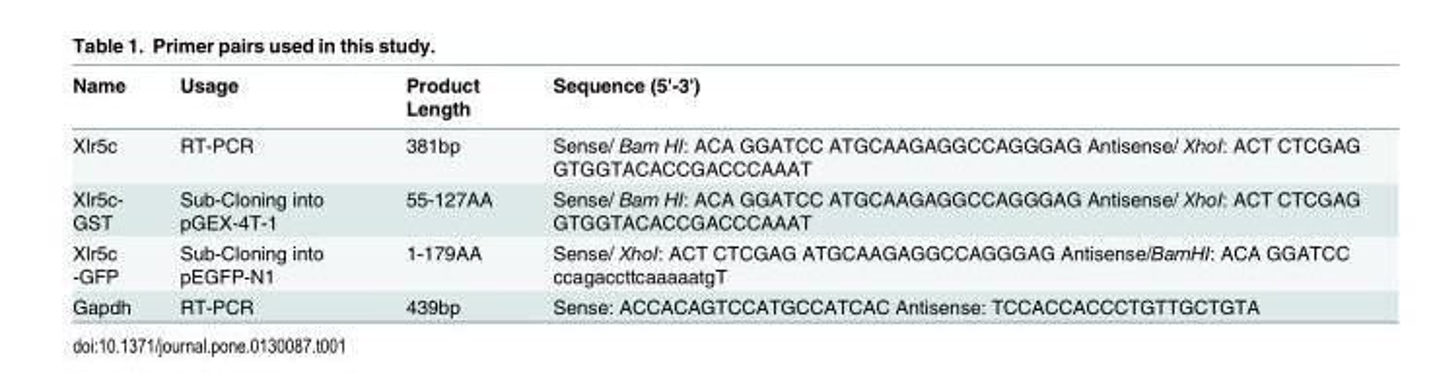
<table><thead><tr><td>Name</td><td>Usage</td><td>Product Length</td><td>Sequence (5&#x27;-3&#x27;)</td></tr></thead><tbody><tr><td>Xlr5c</td><td>RT-PCR</td><td>381bp</td><td>Sense/ Bam HI: ACA GGATCC ATGCAAGAGGCCAGGGAG Antisense/ XhoI: ACT CTCGAG GTGGTACACCGACCCAAAT</td></tr><tr><td>Xlr5c- GST</td><td>Sub-Cloning into pGEX-4T-1</td><td>55-127AA</td><td>Sense/ Bam HI: ACA GGATCC ATGCAAGAGGCCAGGGAG Antisense/ XhoI: ACT CTCGAG GTGGTACACCGACCCAAAT</td></tr><tr><td>Xlr5c -GFP</td><td>Sub-Cloning into pEGFP-N1</td><td>1-179AA</td><td>Sense/ XhoI: ACT CTCGAG ATGCAAGAGGCCAGGGAG Antisense/BamHI: ACA GGATCC ccagaccttcaaaaatgT</td></tr><tr><td>Gapdh</td><td>RT-PCR</td><td>439bp</td><td>Sense: ACCACAGTCCATGCCATCAC Antisense: TCCACCACCCTGTTGCTGTA</td></tr></tbody></table>